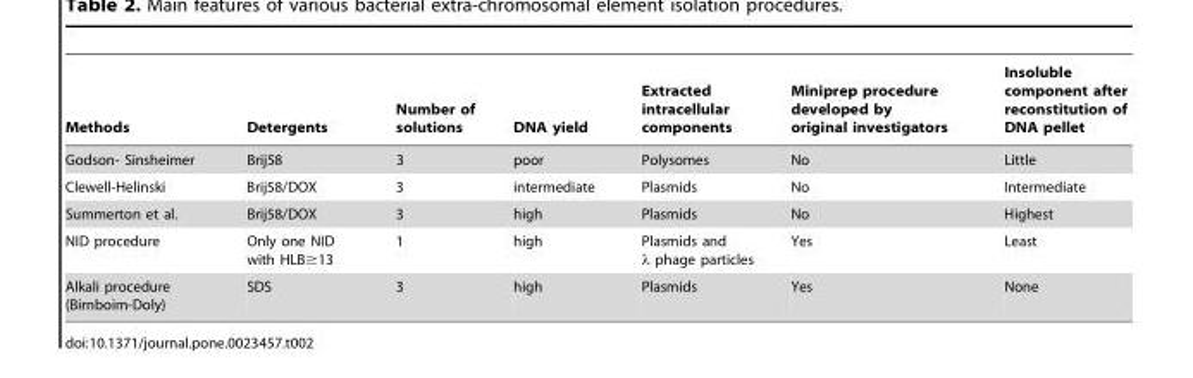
<table><thead><tr><td>Methods</td><td>Detergents</td><td>Number of solutions</td><td>DNA yield</td><td>Extracted intracellular components</td><td>Miniprep procedure developed by original investigators</td><td>Insoluble component after reconstitution of DNA pellet</td></tr></thead><tbody><tr><td>Godson- Sinsheimer</td><td>Brij58</td><td>3</td><td>poor</td><td>Polysomes</td><td>No</td><td>Little</td></tr><tr><td>Clewell-Helinski</td><td>Brij58/DOX</td><td>3</td><td>intermediate</td><td>Plasmids</td><td>No</td><td>Intermediate</td></tr><tr><td>Summerton et al.</td><td>Brij58/DOX</td><td>3</td><td>high</td><td>Plasmids</td><td>No</td><td>Highest</td></tr><tr><td>NID procedure</td><td>Only one NID with HLB≥13</td><td>1</td><td>high</td><td>Plasmids and λ phage particles</td><td>Yes</td><td>Least</td></tr><tr><td>Alkali procedure (Birnboim-Doly)</td><td>SDS</td><td>3</td><td>high</td><td>Plasmids</td><td>Yes</td><td>None</td></tr></tbody></table>